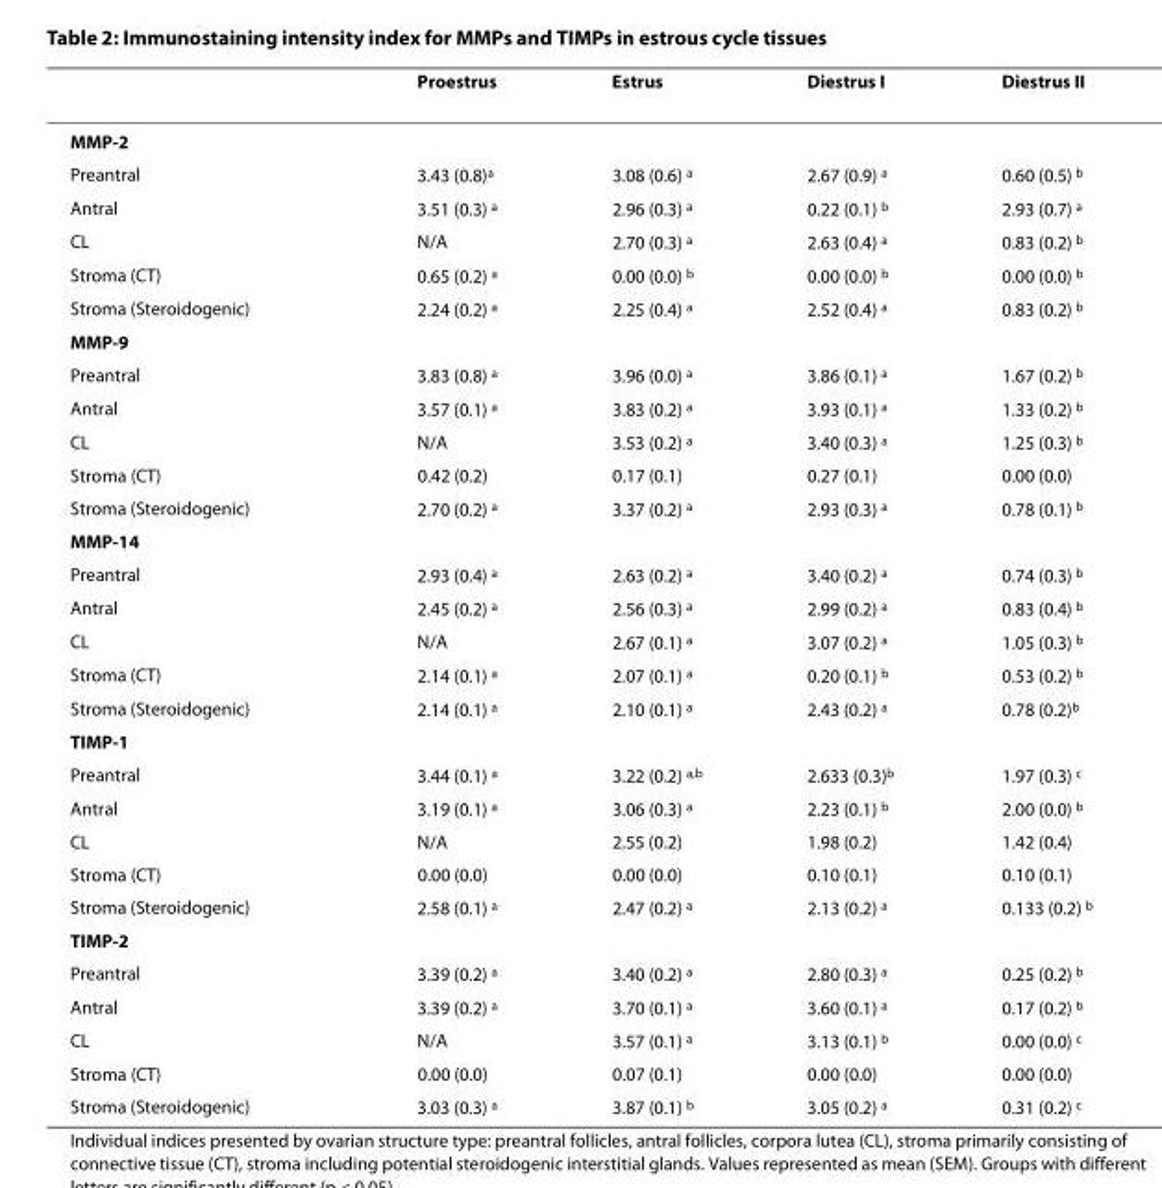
<table><thead><tr><td></td><td>Proestrus</td><td>Estrus</td><td>Diestrus I</td><td>Diestrus II</td></tr></thead><tbody><tr><td colspan="5">MMP-2</td></tr><tr><td>Preantral</td><td>3.43 (0.8)<sup>a</sup></td><td>3.08 (0.6) <sup>a</sup></td><td>2.67 (0.9) <sup>a</sup></td><td>0.60 (0.5) <sup>b</sup></td></tr><tr><td>Antral</td><td>3.51 (0.3) <sup>a</sup></td><td>2.96 (0.3) <sup>a</sup></td><td>0.22 (0.1) <sup>b</sup></td><td>2.93 (0.7) <sup>a</sup></td></tr><tr><td>CL</td><td>N/A</td><td>2.70 (0.3) <sup>a</sup></td><td>2.63 (0.4) <sup>a</sup></td><td>0.83 (0.2) <sup>b</sup></td></tr><tr><td>Stroma (CT)</td><td>0.65 (0.2) <sup>a</sup></td><td>0.00 (0.0) <sup>b</sup></td><td>0.00 (0.0) <sup>b</sup></td><td>0.00 (0.0) <sup>b</sup></td></tr><tr><td>Stroma (Steroidogenic)</td><td>2.24 (0.2) <sup>a</sup></td><td>2.25 (0.4) <sup>a</sup></td><td>2.52 (0.4) <sup>a</sup></td><td>0.83 (0.2) <sup>b</sup></td></tr><tr><td colspan="5">MMP-9</td></tr><tr><td>Preantral</td><td>3.83 (0.8) <sup>a</sup></td><td>3.96 (0.0) <sup>a</sup></td><td>3.86 (0.1) <sup>a</sup></td><td>1.67 (0.2) <sup>b</sup></td></tr><tr><td>Antral</td><td>3.57 (0.1) <sup>a</sup></td><td>3.83 (0.2) <sup>a</sup></td><td>3.93 (0.1) <sup>a</sup></td><td>1.33 (0.2) <sup>b</sup></td></tr><tr><td>CL</td><td>N/A</td><td>3.53 (0.2) <sup>a</sup></td><td>3.40 (0.3) <sup>a</sup></td><td>1.25 (0.3) <sup>b</sup></td></tr><tr><td>Stroma (CT)</td><td>0.42 (0.2)</td><td>0.17 (0.1)</td><td>0.27 (0.1)</td><td>0.00 (0.0)</td></tr><tr><td>Stroma (Steroidogenic)</td><td>2.70 (0.2) <sup>a</sup></td><td>3.37 (0.2) <sup>a</sup></td><td>2.93 (0.3) <sup>a</sup></td><td>0.78 (0.1) <sup>b</sup></td></tr><tr><td colspan="5">MMP-14</td></tr><tr><td>Preantral</td><td>2.93 (0.4) <sup>a</sup></td><td>2.63 (0.2) <sup>a</sup></td><td>3.40 (0.2) <sup>a</sup></td><td>0.74 (0.3) <sup>b</sup></td></tr><tr><td>Antral</td><td>2.45 (0.2) <sup>a</sup></td><td>2.56 (0.3) <sup>a</sup></td><td>2.99 (0.2) <sup>a</sup></td><td>0.83 (0.4) <sup>b</sup></td></tr><tr><td>CL</td><td>N/A</td><td>2.67 (0.1) <sup>a</sup></td><td>3.07 (0.2) <sup>a</sup></td><td>1.05 (0.3) <sup>b</sup></td></tr><tr><td>Stroma (CT)</td><td>2.14 (0.1) <sup>a</sup></td><td>2.07 (0.1) <sup>a</sup></td><td>0.20 (0.1) <sup>b</sup></td><td>0.53 (0.2) <sup>b</sup></td></tr><tr><td>Stroma (Steroidogenic)</td><td>2.14 (0.1) <sup>a</sup></td><td>2.10 (0.1) <sup>a</sup></td><td>2.43 (0.2) <sup>a</sup></td><td>0.78 (0.2)<sup>b</sup></td></tr><tr><td colspan="5">TIMP-1</td></tr><tr><td>Preantral</td><td>3.44 (0.1) <sup>a</sup></td><td>3.22 (0.2) <sup>a,b</sup></td><td>2.633 (0.3)<sup>b</sup></td><td>1.97 (0.3) <sup>c</sup></td></tr><tr><td>Antral</td><td>3.19 (0.1) <sup>a</sup></td><td>3.06 (0.3) <sup>a</sup></td><td>2.23 (0.1) <sup>b</sup></td><td>2.00 (0.0) <sup>b</sup></td></tr><tr><td>CL</td><td>N/A</td><td>2.55 (0.2)</td><td>1.98 (0.2)</td><td>1.42 (0.4)</td></tr><tr><td>Stroma (CT)</td><td>0.00 (0.0)</td><td>0.00 (0.0)</td><td>0.10 (0.1)</td><td>0.10 (0.1)</td></tr><tr><td>Stroma (Steroidogenic)</td><td>2.58 (0.1) <sup>a</sup></td><td>2.47 (0.2) <sup>a</sup></td><td>2.13 (0.2) <sup>a</sup></td><td>0.133 (0.2) <sup>b</sup></td></tr><tr><td colspan="5">TIMP-2</td></tr><tr><td>Preantral</td><td>3.39 (0.2) <sup>a</sup></td><td>3.40 (0.2) <sup>a</sup></td><td>2.80 (0.3) <sup>a</sup></td><td>0.25 (0.2) <sup>b</sup></td></tr><tr><td>Antral</td><td>3.39 (0.2) <sup>a</sup></td><td>3.70 (0.1) <sup>a</sup></td><td>3.60 (0.1) <sup>a</sup></td><td>0.17 (0.2) <sup>b</sup></td></tr><tr><td>CL</td><td>N/A</td><td>3.57 (0.1) <sup>a</sup></td><td>3.13 (0.1) <sup>b</sup></td><td>0.00 (0.0) <sup>c</sup></td></tr><tr><td>Stroma (CT)</td><td>0.00 (0.0)</td><td>0.07 (0.1)</td><td>0.00 (0.0)</td><td>0.00 (0.0)</td></tr><tr><td>Stroma (Steroidogenic)</td><td>3.03 (0.3) <sup>a</sup></td><td>3.87 (0.1) <sup>b</sup></td><td>3.05 (0.2) <sup>a</sup></td><td>0.31 (0.2) <sup>c</sup></td></tr></tbody></table>